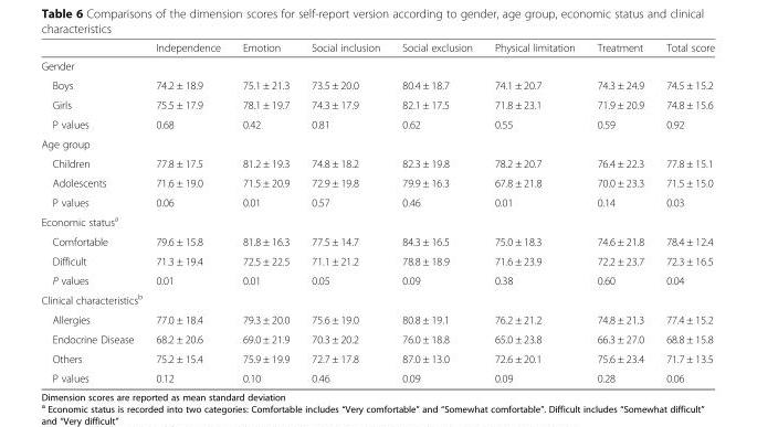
<table><thead><tr><td></td><td>Independence</td><td>Emotion</td><td>Social inclusion</td><td>Social exclusion</td><td>Physical limitation</td><td>Treatment</td><td>Total score</td></tr></thead><tbody><tr><td colspan="8">Gender</td></tr><tr><td>Boys</td><td>74.2 ± 18.9</td><td>75.1 ± 21.3</td><td>73.5 ± 20.0</td><td>80.4 ± 18.7</td><td>74.1 ± 20.7</td><td>74.3 ± 24.9</td><td>74.5 ± 15.2</td></tr><tr><td>Girls</td><td>75.5 ± 17.9</td><td>78.1 ± 19.7</td><td>74.3 ± 17.9</td><td>82.1 ± 17.5</td><td>71.8 ± 23.1</td><td>71.9 ± 20.9</td><td>74.8 ± 15.6</td></tr><tr><td>P values</td><td>0.68</td><td>0.42</td><td>0.81</td><td>0.62</td><td>0.55</td><td>0.59</td><td>0.92</td></tr><tr><td colspan="8">Age group</td></tr><tr><td>Children</td><td>77.8 ± 17.5</td><td>81.2 ± 19.3</td><td>74.8 ± 18.2</td><td>82.3 ± 19.8</td><td>78.2 ± 20.7</td><td>76.4 ± 22.3</td><td>77.8 ± 15.1</td></tr><tr><td>Adolescents</td><td>71.6 ± 19.0</td><td>71.5 ± 20.9</td><td>72.9 ± 19.8</td><td>79.9 ± 16.3</td><td>67.8 ± 21.8</td><td>70.0 ± 23.3</td><td>71.5 ± 15.0</td></tr><tr><td>P values</td><td>0.06</td><td>0.01</td><td>0.57</td><td>0.46</td><td>0.01</td><td>0.14</td><td>0.03</td></tr><tr><td colspan="8">Economic status<sup>a</sup></td></tr><tr><td>Comfortable</td><td>79.6 ± 15.8</td><td>81.8 ± 16.3</td><td>77.5 ± 14.7</td><td>84.3 ± 16.5</td><td>75.0 ± 18.3</td><td>74.6 ± 21.8</td><td>78.4 ± 12.4</td></tr><tr><td>Difficult</td><td>71.3 ± 19.4</td><td>72.5 ± 22.5</td><td>71.1 ± 21.2</td><td>78.8 ± 18.9</td><td>71.6 ± 23.9</td><td>72.2 ± 23.7</td><td>72.3 ± 16.5</td></tr><tr><td>P values</td><td>0.01</td><td>0.01</td><td>0.05</td><td>0.09</td><td>0.38</td><td>0.60</td><td>0.04</td></tr><tr><td colspan="8">Clinical characteristics<sup>b</sup></td></tr><tr><td>Allergies</td><td>77.0 ± 18.4</td><td>79.3 ± 20.0</td><td>75.6 ± 19.0</td><td>80.8 ± 19.1</td><td>76.2 ± 21.2</td><td>74.8 ± 21.3</td><td>77.4 ± 15.2</td></tr><tr><td>Endocrine Disease</td><td>68.2 ± 20.6</td><td>69.0 ± 21.9</td><td>70.3 ± 20.2</td><td>76.0 ± 18.8</td><td>65.0 ± 23.8</td><td>66.3 ± 27.0</td><td>68.8 ± 15.8</td></tr><tr><td>Others</td><td>75.2 ± 15.4</td><td>75.9 ± 19.9</td><td>72.7 ± 17.8</td><td>87.0 ± 13.0</td><td>72.6 ± 20.1</td><td>75.6 ± 23.4</td><td>71.7 ± 13.5</td></tr><tr><td>P values</td><td>0.12</td><td>0.10</td><td>0.46</td><td>0.09</td><td>0.09</td><td>0.28</td><td>0.06</td></tr></tbody></table>